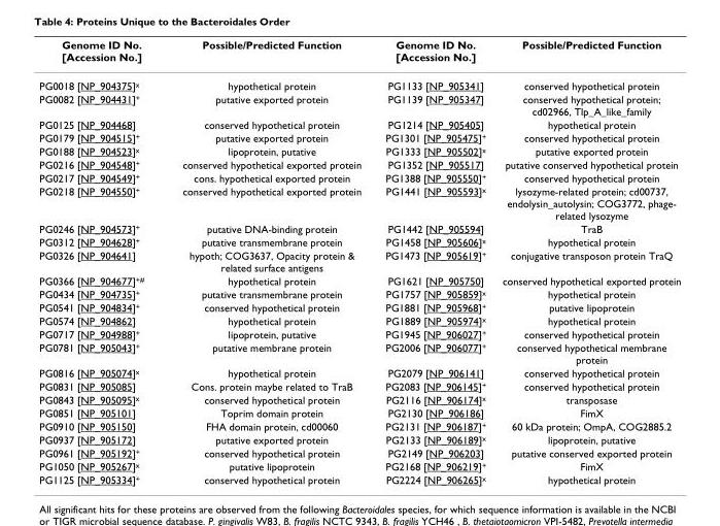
<table><thead><tr><td>Genome ID No. [Accession No.]</td><td>Possible/Predicted Function</td><td>Genome ID No. [Accession No.]</td><td>Possible/Predicted Function</td></tr></thead><tbody><tr><td>PG0018 [NP_904375]<sup>x</sup></td><td>hypothetical protein</td><td>PG1133 [NP_905341]</td><td>conserved hypothetical protein</td></tr><tr><td>PG0082 [NP_904431]<sup>+</sup></td><td>putative exported protein</td><td>PG1139 [NP_905347]</td><td>conserved hypothetical protein; cd02966, Tlp_A_like_family</td></tr><tr><td>PG0125 [NP_904468]</td><td>conserved hypothetical protein</td><td>PG1214 [NP_905405]</td><td>hypothetical protein</td></tr><tr><td>PG0179 [NP_904515]<sup>+</sup></td><td>putative exported protein</td><td>PG1301 [NP_905475]<sup>+</sup></td><td>conserved hypothetical protein</td></tr><tr><td>PG0188 [NP_904523]<sup>x</sup></td><td>lipoprotein, putative</td><td>PG1333 [NP_905502]<sup>x</sup></td><td>putative exported protein</td></tr><tr><td>PG0216 [NP_904548]<sup>+</sup></td><td>conserved hypothetical exported protein</td><td>PG1352 [NP_905517]</td><td>putative conserved hypothetical protein</td></tr><tr><td>PG0217 [NP_904549]<sup>+</sup></td><td>cons. hypothetical exported protein</td><td>PG1388 [NP_905550]<sup>+</sup></td><td>conserved hypothetical protein</td></tr><tr><td>PG0218 [NP_904550]<sup>+</sup></td><td>conserved hypothetical exported protein</td><td>PG1441 [NP_905593]<sup>x</sup></td><td>lysozyme-related protein; cd00737, endolysin_autolysin; COG3772, phage- related lysozyme</td></tr><tr><td>PG0246 [NP_904573]<sup>+</sup></td><td>putative DNA-binding protein</td><td>PG1442 [NP_905594]</td><td>TraB</td></tr><tr><td>PG0312 [NP_904628]<sup>+</sup></td><td>putative transmembrane protein</td><td>PG1458 [NP_905606]<sup>x</sup></td><td>hypothetical protein</td></tr><tr><td>PG0326 [NP_904641]</td><td>hypoth; COG3637, Opacity protein &amp; related surface antigens</td><td>PG1473 [NP_905619]<sup>+</sup></td><td>conjugative transposon protein TraQ</td></tr><tr><td>PG0366 [NP_904677]<sup>+#</sup></td><td>hypothetical protein</td><td>PG1621 [NP_905750]</td><td>conserved hypothetical exported protein</td></tr><tr><td>PG0434 [NP_904735]<sup>+</sup></td><td>putative transmembrane protein</td><td>PG1757 [NP_905859]<sup>x</sup></td><td>hypothetical protein</td></tr><tr><td>PG0541 [NP_904834]<sup>+</sup></td><td>conserved hypothetical protein</td><td>PG1881 [NP_905968]<sup>+</sup></td><td>putative lipoprotein</td></tr><tr><td>PG0574 [NP_904862]</td><td>hypothetical protein</td><td>PG1889 [NP_905974]<sup>x</sup></td><td>hypothetical protein</td></tr><tr><td>PG0717 [NP_904988]<sup>+</sup></td><td>lipoprotein, putative</td><td>PG1945 [NP_906027]<sup>+</sup></td><td>conserved hypothetical protein</td></tr><tr><td>PG0781 [NP_905043]<sup>+</sup></td><td>putative membrane protein</td><td>PG2006 [NP_906077]<sup>+</sup></td><td>conserved hypothetical membrane protein</td></tr><tr><td>PG0816 [NP_905074]<sup>x</sup></td><td>hypothetical protein</td><td>PG2079 [NP_906141]</td><td>conserved hypothetical protein</td></tr><tr><td>PG0831 [NP_905085]</td><td>Cons. protein maybe related to TraB</td><td>PG2083 [NP_906145]<sup>+</sup></td><td>conserved hypothetical protein</td></tr><tr><td>PG0843 [NP_905095]<sup>x</sup></td><td>conserved hypothetical protein</td><td>PG2116 [NP_906174]<sup>x</sup></td><td>transposase</td></tr><tr><td>PG0851 [NP_905101]</td><td>Toprim domain protein</td><td>PG2130 [NP_906186]</td><td>FimX</td></tr><tr><td>PG0910 [NP_905150]</td><td>FHA domain protein, cd00060</td><td>PG2131 [NP_906187]<sup>+</sup></td><td>60 kDa protein; OmpA, COG2885.2</td></tr><tr><td>PG0937 [NP_905172]</td><td>putative exported protein</td><td>PG2133 [NP_906189]<sup>x</sup></td><td>lipoprotein, putative</td></tr><tr><td>PG0961 [NP_905192]<sup>+</sup></td><td>conserved hypothetical protein</td><td>PG2149 [NP_906203]</td><td>putative conserved exported protein</td></tr><tr><td>PG1050 [NP_905267]<sup>x</sup></td><td>putative lipoprotein</td><td>PG2168 [NP_906219]<sup>+</sup></td><td>FimX</td></tr><tr><td>PG1125 [NP_905334]<sup>+</sup></td><td>conserved hypothetical protein</td><td>PG2224 [NP_906265]<sup>x</sup></td><td>hypothetical protein</td></tr></tbody></table>